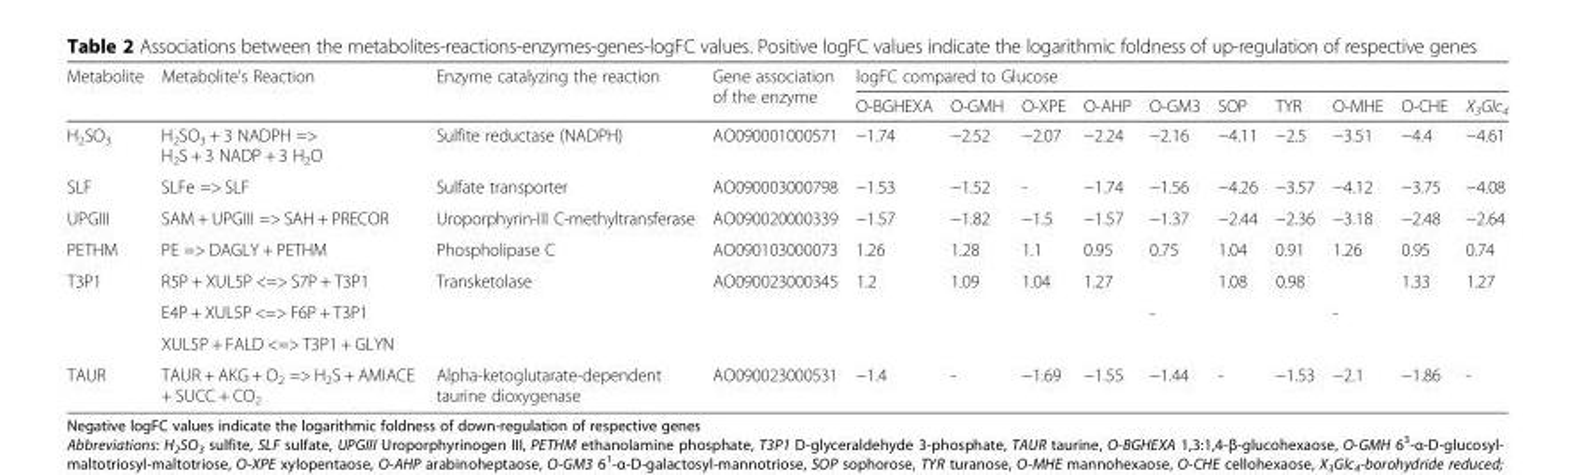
<table><thead><tr><td rowspan="2">Metabolite</td><td rowspan="2">Metabolite&#x27;s Reaction</td><td rowspan="2">Enzyme catalyzing the reaction</td><td rowspan="2">Gene association of the enzyme</td><td colspan="10">logFC compared to Glucose</td></tr><tr><td>O-BGHEXA</td><td>O-GMH</td><td>O-XPE</td><td>O-AHP</td><td>O-GM3</td><td>SOP</td><td>TYR</td><td>O-MHE</td><td>O-CHE</td><td>X<sub>3</sub>Glc<sub>4</sub></td></tr></thead><tbody><tr><td>H<sub>2</sub>SO<sub>3</sub></td><td>H<sub>2</sub>SO<sub>3</sub> + 3 NADPH =&gt; H<sub>2</sub>S + 3 NADP + 3 H<sub>2</sub>O</td><td>Sulfite reductase (NADPH)</td><td>AO090001000571</td><td>−1.74</td><td>−2.52</td><td>−2.07</td><td>−2.24</td><td>−2.16</td><td>−4.11</td><td>−2.5</td><td>−3.51</td><td>−4.4</td><td>−4.61</td></tr><tr><td>SLF</td><td>SLFe =&gt; SLF</td><td>Sulfate transporter</td><td>AO090003000798</td><td>−1.53</td><td>−1.52</td><td>-</td><td>−1.74</td><td>−1.56</td><td>−4.26</td><td>−3.57</td><td>−4.12</td><td>−3.75</td><td>−4.08</td></tr><tr><td>UPGIII</td><td>SAM + UPGIII =&gt; SAH + PRECOR</td><td>Uroporphyrin-III C-methyltransferase</td><td>AO090020000339</td><td>−1.57</td><td>−1.82</td><td>−1.5</td><td>−1.57</td><td>−1.37</td><td>−2.44</td><td>−2.36</td><td>−3.18</td><td>−2.48</td><td>−2.64</td></tr><tr><td>PETHM</td><td>PE =&gt; DAGLY + PETHM</td><td>Phospholipase C</td><td>AO090103000073</td><td>1.26</td><td>1.28</td><td>1.1</td><td>0.95</td><td>0.75</td><td>1.04</td><td>0.91</td><td>1.26</td><td>0.95</td><td>0.74</td></tr><tr><td rowspan="3">T3P1</td><td>R5P + XUL5P &lt;=&gt; S7P + T3P1</td><td rowspan="3">Transketolase</td><td rowspan="3">AO090023000345</td><td rowspan="3">1.2</td><td rowspan="3">1.09</td><td rowspan="3">1.04</td><td rowspan="3">1.27</td><td></td><td rowspan="3">1.08</td><td rowspan="3">0.98</td><td></td><td rowspan="3">1.33</td><td rowspan="3">1.27</td></tr><tr><td>E4P + XUL5P &lt;=&gt; F6P + T3P1</td><td>-</td><td>-</td></tr><tr><td>XUL5P + FALD &lt;=&gt; T3P1 + GLYN</td><td></td><td></td></tr><tr><td>TAUR</td><td>TAUR + AKG + O<sub>2</sub> =&gt; H<sub>2</sub>S + AMIACE + SUCC + CO<sub>2</sub></td><td>Alpha-ketoglutarate-dependent taurine dioxygenase</td><td>AO090023000531</td><td>−1.4</td><td>-</td><td>−1.69</td><td>−1.55</td><td>−1.44</td><td>-</td><td>−1.53</td><td>−2.1</td><td>−1.86</td><td>-</td></tr></tbody></table>